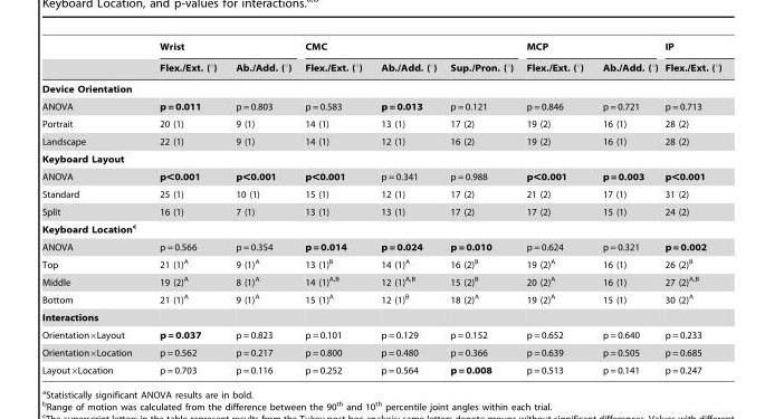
<table><thead><tr><td rowspan="2"></td><td colspan="2">Wrist</td><td colspan="3">CMC</td><td colspan="2">MCP</td><td rowspan="2">IP Flex./Ext. (°)</td></tr><tr><td>Flex./Ext. (°)</td><td>Ab./Add. (°)</td><td>Flex./Ext. (°)</td><td>Ab./Add. (°)</td><td>Sup./Pron. (°)</td><td>Flex./Ext. (°)</td><td>Ab./Add. (°)</td></tr></thead><tbody><tr><td colspan="9">Device Orientation</td></tr><tr><td>ANOVA</td><td>p = 0.011</td><td>p = 0.803</td><td>p = 0.583</td><td>p = 0.013</td><td>p = 0.121</td><td>p = 0.846</td><td>p = 0.721</td><td>p = 0.713</td></tr><tr><td>Portrait</td><td>20 (1)</td><td>9 (1)</td><td>14 (1)</td><td>13 (1)</td><td>17 (2)</td><td>19 (2)</td><td>16 (1)</td><td>28 (2)</td></tr><tr><td>Landscape</td><td>22 (1)</td><td>9 (1)</td><td>14 (1)</td><td>12 (1)</td><td>16 (2)</td><td>19 (2)</td><td>16 (1)</td><td>28 (2)</td></tr><tr><td colspan="9">Keyboard Layout</td></tr><tr><td>ANOVA</td><td>p&lt;0.001</td><td>p&lt;0.001</td><td>p&lt;0.001</td><td>p = 0.341</td><td>p = 0.988</td><td>p&lt;0.001</td><td>p = 0.003</td><td>p&lt;0.001</td></tr><tr><td>Standard</td><td>25 (1)</td><td>10 (1)</td><td>15 (1)</td><td>12 (1)</td><td>17 (2)</td><td>21 (2)</td><td>17 (1)</td><td>31 (2)</td></tr><tr><td>Split</td><td>16 (1)</td><td>7 (1)</td><td>13 (1)</td><td>13 (1)</td><td>17 (2)</td><td>17 (2)</td><td>15 (1)</td><td>24 (2)</td></tr><tr><td colspan="9">Keyboard Locationc</td></tr><tr><td>ANOVA</td><td>p = 0.566</td><td>p = 0.354</td><td>p = 0.014</td><td>p = 0.024</td><td>p = 0.010</td><td>p = 0.624</td><td>p = 0.321</td><td>p = 0.002</td></tr><tr><td>Top</td><td>21 (1)<sup>A</sup></td><td>9 (1)<sup>A</sup></td><td>13 (1)<sup>B</sup></td><td>14 (1)<sup>A</sup></td><td>16 (2)<sup>B</sup></td><td>19 (2)<sup>A</sup></td><td>16 (1)</td><td>26 (2)<sup>B</sup></td></tr><tr><td>Middle</td><td>19 (2)<sup>A</sup></td><td>8 (1)<sup>A</sup></td><td>14 (1)<sup>A,B</sup></td><td>12 (1)<sup>A,B</sup></td><td>15 (2)<sup>B</sup></td><td>20 (2)<sup>A</sup></td><td>16 (1)</td><td>27 (2)<sup>A,B</sup></td></tr><tr><td>Bottom</td><td>21 (1)<sup>A</sup></td><td>9 (1)<sup>A</sup></td><td>15 (1)<sup>A</sup></td><td>12 (1)<sup>B</sup></td><td>18 (2)<sup>A</sup></td><td>19 (2)<sup>A</sup></td><td>15 (1)</td><td>30 (2)<sup>A</sup></td></tr><tr><td colspan="9">Interactions</td></tr><tr><td>Orientation×Layout</td><td>p = 0.037</td><td>p = 0.823</td><td>p = 0.101</td><td>p = 0.129</td><td>p = 0.152</td><td>p = 0.652</td><td>p = 0.640</td><td>p = 0.233</td></tr><tr><td>Orientation×Location</td><td>p = 0.562</td><td>p = 0.217</td><td>p = 0.800</td><td>p = 0.480</td><td>p = 0.366</td><td>p = 0.639</td><td>p = 0.505</td><td>p = 0.685</td></tr><tr><td>Layout×Location</td><td>p = 0.703</td><td>p = 0.116</td><td>p = 0.252</td><td>p = 0.564</td><td>p = 0.008</td><td>p = 0.513</td><td>p = 0.141</td><td>p = 0.247</td></tr></tbody></table>